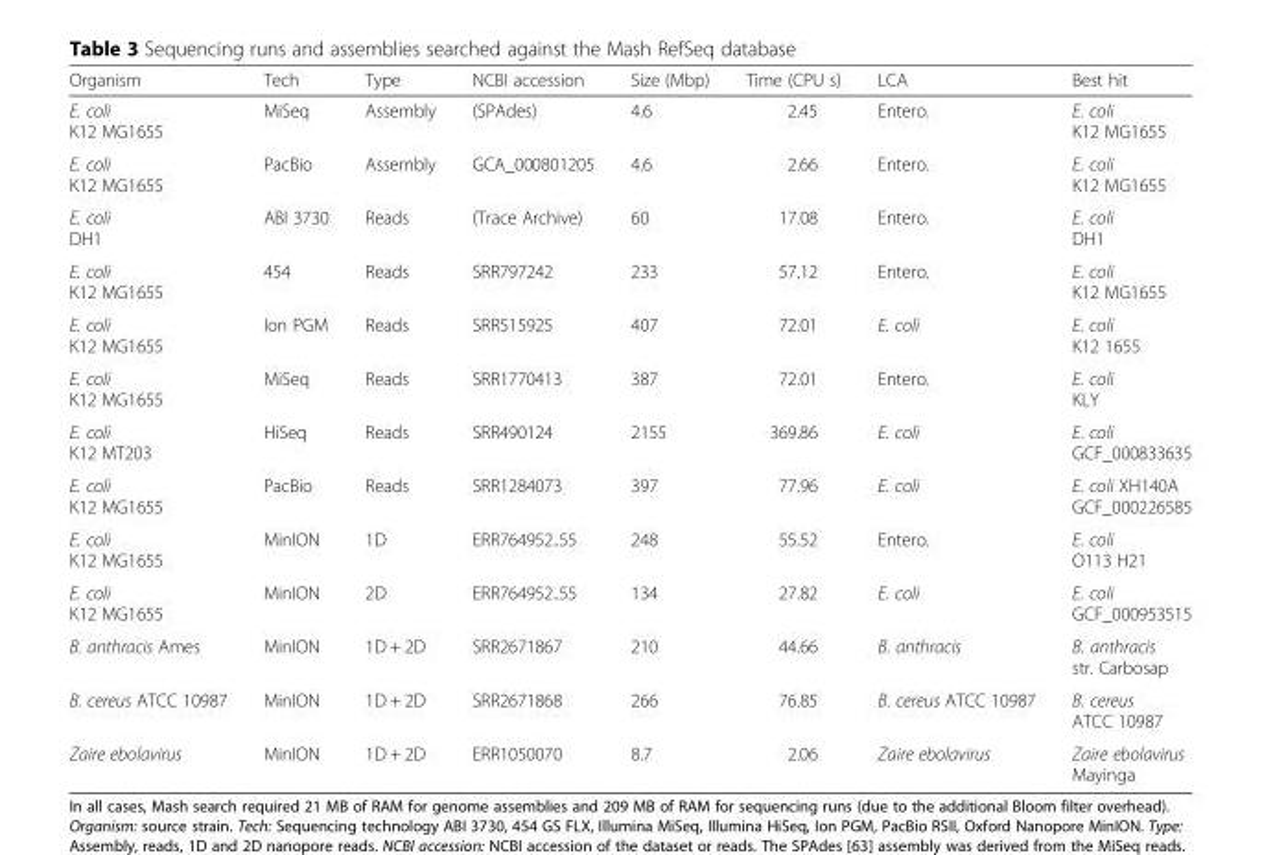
<table><thead><tr><td>Organism</td><td>Tech</td><td>Type</td><td>NCBI accession</td><td>Size (Mbp)</td><td>Time (CPU s)</td><td>LCA</td><td>Best hit</td></tr></thead><tbody><tr><td>E. coli K12 MG1655</td><td>MiSeq</td><td>Assembly</td><td>(SPAdes)</td><td>4.6</td><td>2.45</td><td>Entero.</td><td>E. coli K12 MG1655</td></tr><tr><td>E. coli K12 MG1655</td><td>PacBio</td><td>Assembly</td><td>GCA_000801205</td><td>4.6</td><td>2.66</td><td>Entero.</td><td>E. coli K12 MG1655</td></tr><tr><td>E. coli DH1</td><td>ABI 3730</td><td>Reads</td><td>(Trace Archive)</td><td>60</td><td>17.08</td><td>Entero.</td><td>E. coli DH1</td></tr><tr><td>E. coli K12 MG1655</td><td>454</td><td>Reads</td><td>SRR797242</td><td>233</td><td>57.12</td><td>Entero.</td><td>E. coli K12 MG1655</td></tr><tr><td>E. coli K12 MG1655</td><td>Ion PGM</td><td>Reads</td><td>SRR515925</td><td>407</td><td>72.01</td><td>E. coli</td><td>E. coli K12 1655</td></tr><tr><td>E. coli K12 MG1655</td><td>MiSeq</td><td>Reads</td><td>SRR1770413</td><td>387</td><td>72.01</td><td>Entero.</td><td>E. coli KLY</td></tr><tr><td>E. coli K12 MT203</td><td>HiSeq</td><td>Reads</td><td>SRR490124</td><td>2155</td><td>369.86</td><td>E. coli</td><td>E. coli GCF_000833635</td></tr><tr><td>E. coli K12 MG1655</td><td>PacBio</td><td>Reads</td><td>SRR1284073</td><td>397</td><td>77.96</td><td>E. coli</td><td>E. coli XH140A GCF_000226585</td></tr><tr><td>E. coli K12 MG1655</td><td>MinION</td><td>1D</td><td>ERR764952..55</td><td>248</td><td>55.52</td><td>Entero.</td><td>E. coli O113 H21</td></tr><tr><td>E. coli K12 MG1655</td><td>MinION</td><td>2D</td><td>ERR764952..55</td><td>134</td><td>27.82</td><td>E. coli</td><td>E. coli GCF_000953515</td></tr><tr><td>B. anthracis Ames</td><td>MinION</td><td>1D + 2D</td><td>SRR2671867</td><td>210</td><td>44.66</td><td>B. anthracis</td><td>B. anthracis str. Carbosap</td></tr><tr><td>B. cereus ATCC 10987</td><td>MinION</td><td>1D + 2D</td><td>SRR2671868</td><td>266</td><td>76.85</td><td>B. cereus ATCC 10987</td><td>B. cereus ATCC 10987</td></tr><tr><td>Zaire ebolavirus</td><td>MinION</td><td>1D + 2D</td><td>ERR1050070</td><td>8.7</td><td>2.06</td><td>Zaire ebolavirus</td><td>Zaire ebolavirus Mayinga</td></tr></tbody></table>